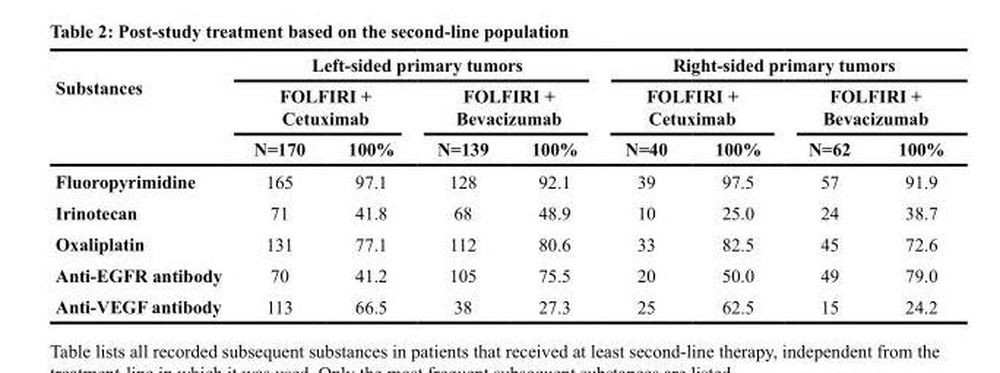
<table><thead><tr><td rowspan="3">Substances</td><td colspan="4">Left-sided primary tumors</td><td colspan="4">Right-sided primary tumors</td></tr><tr><td colspan="2">FOLFIRI + Cetuximab</td><td colspan="2">FOLFIRI + Bevacizumab</td><td colspan="2">FOLFIRI + Cetuximab</td><td colspan="2">FOLFIRI + Bevacizumab</td></tr><tr><td>N=170</td><td>100%</td><td>N=139</td><td>100%</td><td>N=40</td><td>100%</td><td>N=62</td><td>100%</td></tr></thead><tbody><tr><td>Fluoropyrimidine</td><td>165</td><td>97.1</td><td>128</td><td>92.1</td><td>39</td><td>97.5</td><td>57</td><td>91.9</td></tr><tr><td>Irinotecan</td><td>71</td><td>41.8</td><td>68</td><td>48.9</td><td>10</td><td>25.0</td><td>24</td><td>38.7</td></tr><tr><td>Oxaliplatin</td><td>131</td><td>77.1</td><td>112</td><td>80.6</td><td>33</td><td>82.5</td><td>45</td><td>72.6</td></tr><tr><td>Anti-EGFR antibody</td><td>70</td><td>41.2</td><td>105</td><td>75.5</td><td>20</td><td>50.0</td><td>49</td><td>79.0</td></tr><tr><td>Anti-VEGF antibody</td><td>113</td><td>66.5</td><td>38</td><td>27.3</td><td>25</td><td>62.5</td><td>15</td><td>24.2</td></tr></tbody></table>